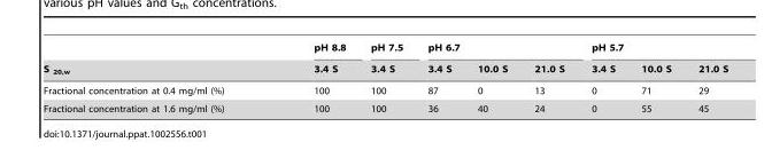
<table><thead><tr><td rowspan="2">S <sub>20,w</sub></td><td rowspan="2">pH 8.8 3.4 S</td><td rowspan="2">pH 7.5 3.4 S</td><td colspan="3">pH 6.7</td><td colspan="3">pH 5.7</td></tr><tr><td>3.4 S</td><td>10.0 S</td><td>21.0 S</td><td>3.4 S</td><td>10.0 S</td><td>21.0 S</td></tr></thead><tbody><tr><td>Fractional concentration at 0.4 mg/ml (%)</td><td>100</td><td>100</td><td>87</td><td>0</td><td>13</td><td>0</td><td>71</td><td>29</td></tr><tr><td>Fractional concentration at 1.6 mg/ml (%)</td><td>100</td><td>100</td><td>36</td><td>40</td><td>24</td><td>0</td><td>55</td><td>45</td></tr></tbody></table>